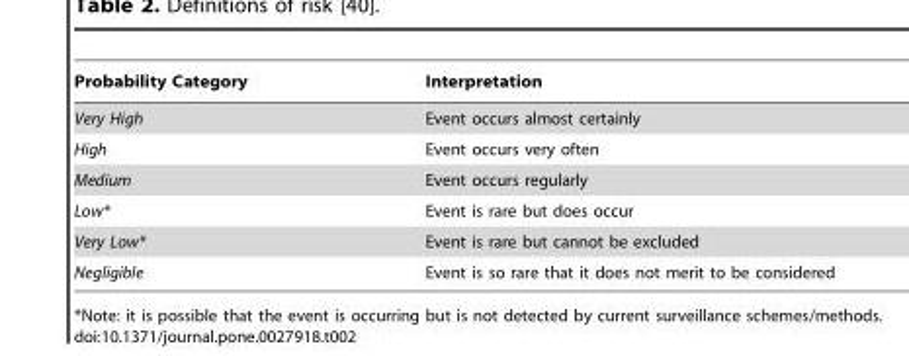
<table><thead><tr><td>Probability Category</td><td>Interpretation</td></tr></thead><tbody><tr><td>Very High</td><td>Event occurs almost certainly</td></tr><tr><td>High</td><td>Event occurs very often</td></tr><tr><td>Medium</td><td>Event occurs regularly</td></tr><tr><td>Low*</td><td>Event is rare but does occur</td></tr><tr><td>Very Low*</td><td>Event is rare but cannot be excluded</td></tr><tr><td>Negligible</td><td>Event is so rare that it does not merit to be considered</td></tr></tbody></table>